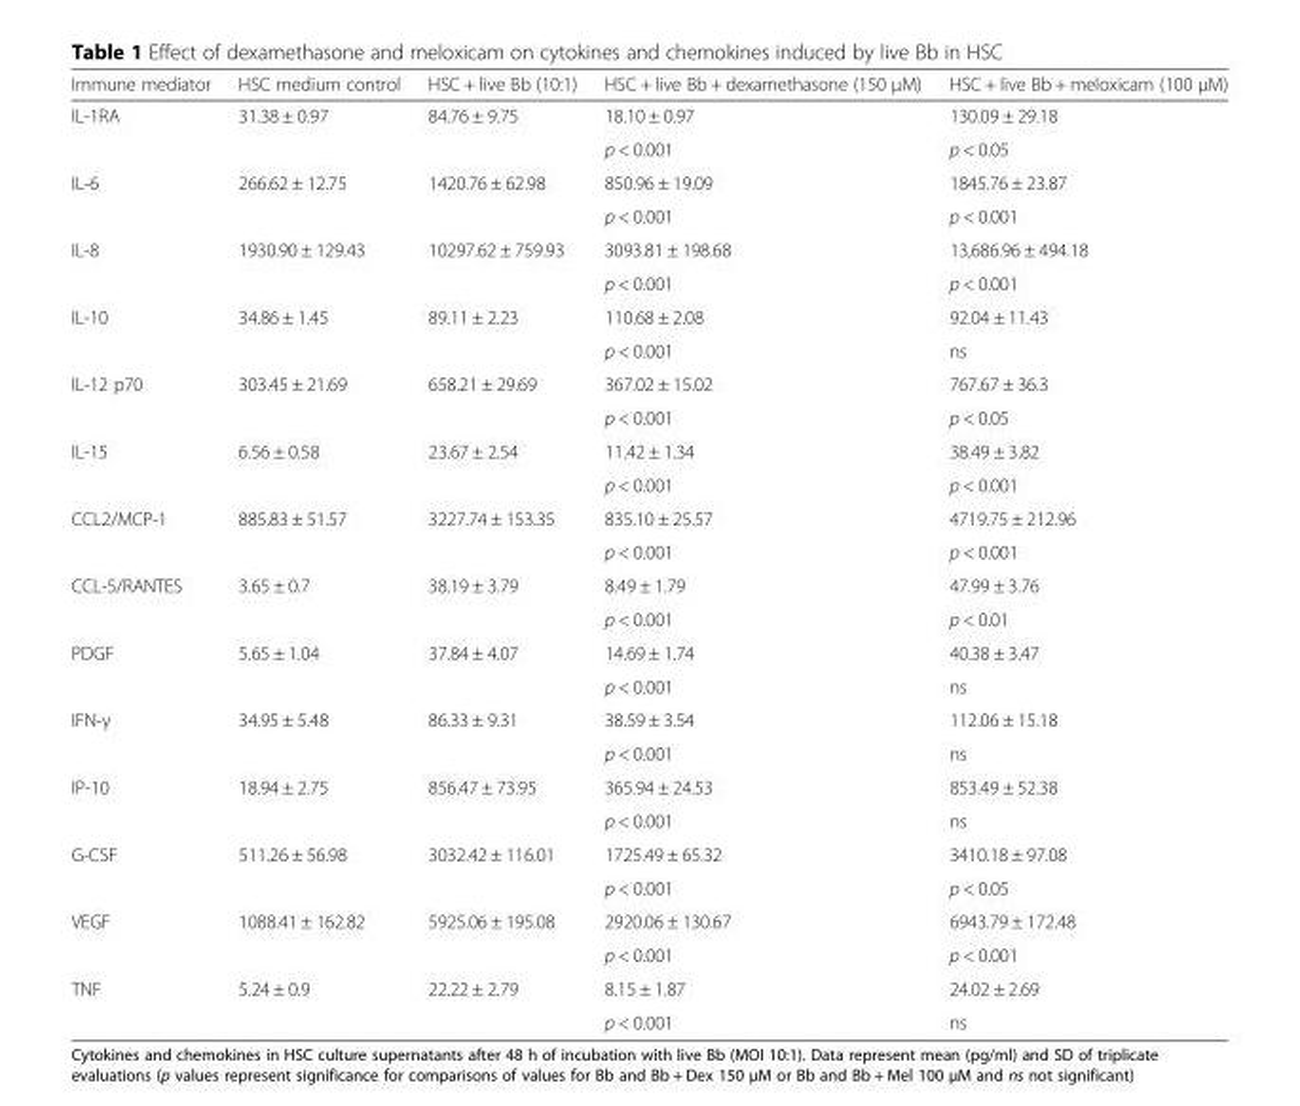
<table><thead><tr><td>Immune mediator</td><td>HSC medium control</td><td>HSC + live Bb (10:1)</td><td>HSC + live Bb + dexamethasone (150 μM)</td><td>HSC + live Bb + meloxicam (100 μM)</td></tr></thead><tbody><tr><td rowspan="2">IL-1RA</td><td rowspan="2">31.38 ± 0.97</td><td rowspan="2">84.76 ± 9.75</td><td>18.10 ± 0.97</td><td>130.09 ± 29.18</td></tr><tr><td>p &lt; 0.001</td><td>p &lt; 0.05</td></tr><tr><td rowspan="2">IL-6</td><td rowspan="2">266.62 ± 12.75</td><td rowspan="2">1420.76 ± 62.98</td><td>850.96 ± 19.09</td><td>1845.76 ± 23.87</td></tr><tr><td>p &lt; 0.001</td><td>p &lt; 0.001</td></tr><tr><td rowspan="2">IL-8</td><td rowspan="2">1930.90 ± 129.43</td><td rowspan="2">10297.62 ± 759.93</td><td>3093.81 ± 198.68</td><td>13,686.96 ± 494.18</td></tr><tr><td>p &lt; 0.001</td><td>p &lt; 0.001</td></tr><tr><td rowspan="2">IL-10</td><td rowspan="2">34.86 ± 1.45</td><td rowspan="2">89.11 ± 2.23</td><td>110.68 ± 2.08</td><td>92.04 ± 11.43</td></tr><tr><td>p &lt; 0.001</td><td>ns</td></tr><tr><td rowspan="2">IL-12 p70</td><td rowspan="2">303.45 ± 21.69</td><td rowspan="2">658.21 ± 29.69</td><td>367.02 ± 15.02</td><td>767.67 ± 36.3</td></tr><tr><td>p &lt; 0.001</td><td>p &lt; 0.05</td></tr><tr><td rowspan="2">IL-15</td><td rowspan="2">6.56 ± 0.58</td><td rowspan="2">23.67 ± 2.54</td><td>11.42 ± 1.34</td><td>38.49 ± 3.82</td></tr><tr><td>p &lt; 0.001</td><td>p &lt; 0.001</td></tr><tr><td rowspan="2">CCL2/MCP-1</td><td rowspan="2">885.83 ± 51.57</td><td rowspan="2">3227.74 ± 153.35</td><td>835.10 ± 25.57</td><td>4719.75 ± 212.96</td></tr><tr><td>p &lt; 0.001</td><td>p &lt; 0.001</td></tr><tr><td rowspan="2">CCL-5/RANTES</td><td rowspan="2">3.65 ± 0.7</td><td rowspan="2">38.19 ± 3.79</td><td>8.49 ± 1.79</td><td>47.99 ± 3.76</td></tr><tr><td>p &lt; 0.001</td><td>p &lt; 0.01</td></tr><tr><td rowspan="2">PDGF</td><td rowspan="2">5.65 ± 1.04</td><td rowspan="2">37.84 ± 4.07</td><td>14.69 ± 1.74</td><td>40.38 ± 3.47</td></tr><tr><td>p &lt; 0.001</td><td>ns</td></tr><tr><td rowspan="2">IFN-γ</td><td rowspan="2">34.95 ± 5.48</td><td rowspan="2">86.33 ± 9.31</td><td>38.59 ± 3.54</td><td>112.06 ± 15.18</td></tr><tr><td>p &lt; 0.001</td><td>ns</td></tr><tr><td rowspan="2">IP-10</td><td rowspan="2">18.94 ± 2.75</td><td rowspan="2">856.47 ± 73.95</td><td>365.94 ± 24.53</td><td>853.49 ± 52.38</td></tr><tr><td>p &lt; 0.001</td><td>ns</td></tr><tr><td rowspan="2">G-CSF</td><td rowspan="2">511.26 ± 56.98</td><td rowspan="2">3032.42 ± 116.01</td><td>1725.49 ± 65.32</td><td>3410.18 ± 97.08</td></tr><tr><td>p &lt; 0.001</td><td>p &lt; 0.05</td></tr><tr><td rowspan="2">VEGF</td><td rowspan="2">1088.41 ± 162.82</td><td rowspan="2">5925.06 ± 195.08</td><td>2920.06 ± 130.67</td><td>6943.79 ± 172.48</td></tr><tr><td>p &lt; 0.001</td><td>p &lt; 0.001</td></tr><tr><td rowspan="2">TNF</td><td rowspan="2">5.24 ± 0.9</td><td rowspan="2">22.22 ± 2.79</td><td>8.15 ± 1.87</td><td>24.02 ± 2.69</td></tr><tr><td>p &lt; 0.001</td><td>ns</td></tr></tbody></table>